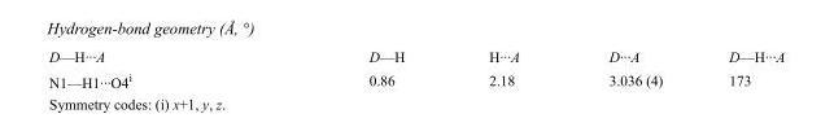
<table><tbody><tr><td>D—H···A</td><td>D—H</td><td>H···A</td><td>D···A</td><td>D—H···A</td></tr><tr><td>N1—H1···O4<sup>i</sup></td><td>0.86</td><td>2.18</td><td>3.036 (4)</td><td>173</td></tr></tbody></table>